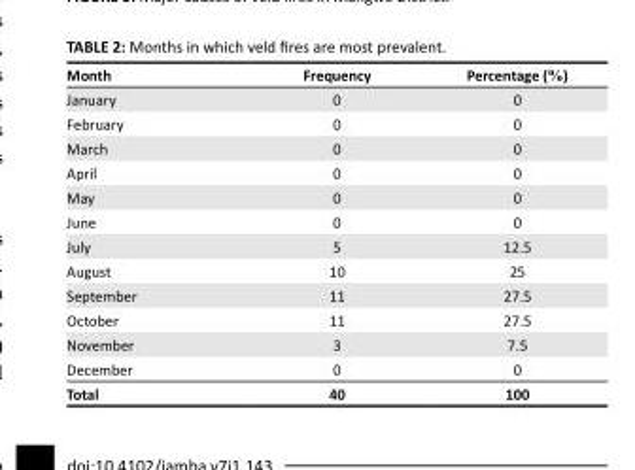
<table><thead><tr><td>Month</td><td>Frequency</td><td>Percentage (%)</td></tr></thead><tbody><tr><td>January</td><td>0</td><td>0</td></tr><tr><td>February</td><td>0</td><td>0</td></tr><tr><td>March</td><td>0</td><td>0</td></tr><tr><td>April</td><td>0</td><td>0</td></tr><tr><td>May</td><td>0</td><td>0</td></tr><tr><td>June</td><td>0</td><td>0</td></tr><tr><td>July</td><td>5</td><td>12.5</td></tr><tr><td>August</td><td>10</td><td>25</td></tr><tr><td>September</td><td>11</td><td>27.5</td></tr><tr><td>October</td><td>11</td><td>27.5</td></tr><tr><td>November</td><td>3</td><td>7.5</td></tr><tr><td>December</td><td>0</td><td>0</td></tr><tr><td>Total</td><td>40</td><td>100</td></tr></tbody></table>